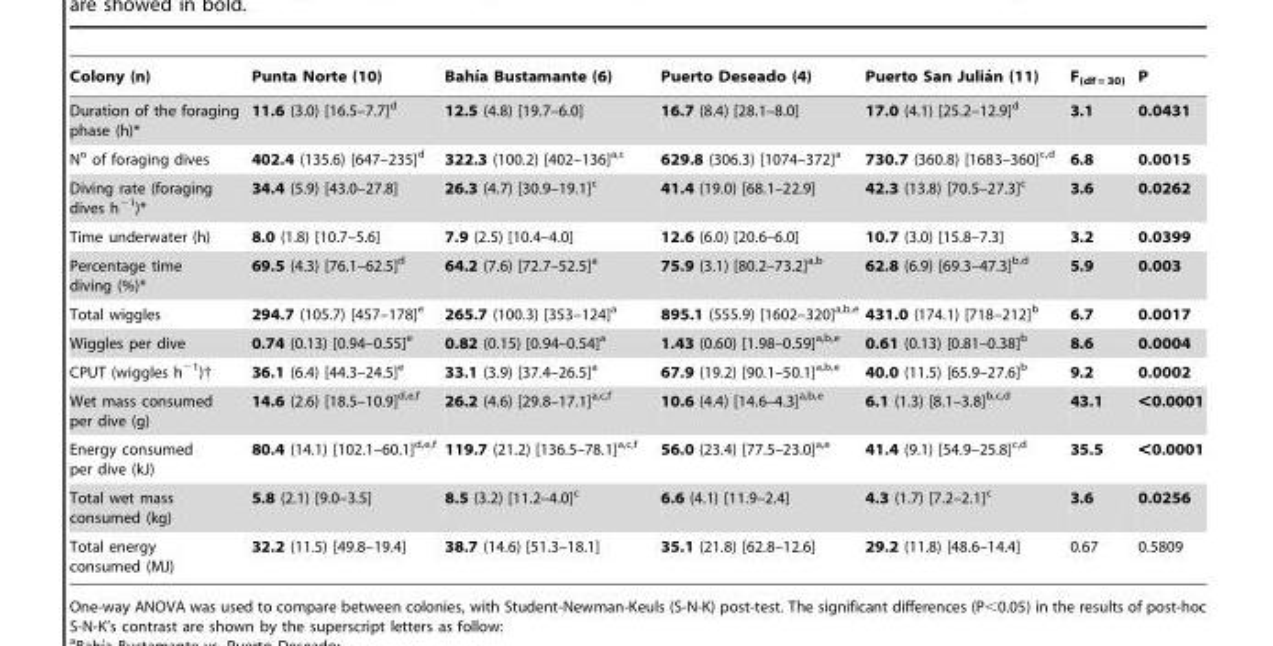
<table><thead><tr><td>Colony (n)</td><td>Punta Norte (10)</td><td>Bahı´a Bustamante (6)</td><td>Puerto Deseado (4)</td><td>Puerto San Julia´n (11)</td><td>F<sub>(df = 30)</sub></td><td>P</td></tr></thead><tbody><tr><td>Duration of the foraging phase (h)*</td><td>11.6 (3.0) [16.5–7.7]<sup>d</sup></td><td>12.5 (4.8) [19.7–6.0]</td><td>16.7 (8.4) [28.1–8.0]</td><td>17.0 (4.1) [25.2–12.9]<sup>d</sup></td><td>3.1</td><td>0.0431</td></tr><tr><td>N<sup>o</sup> of foraging dives</td><td>402.4 (135.6) [647–235]<sup>d</sup></td><td>322.3 (100.2) [402–136]a,c</td><td>629.8 (306.3) [1074–372]<sup>a</sup></td><td>730.7 (360.8) [1683–360]c,d</td><td>6.8</td><td>0.0015</td></tr><tr><td>Diving rate (foraging dives h<sup>−1</sup>)*</td><td>34.4 (5.9) [43.0–27.8]</td><td>26.3 (4.7) [30.9–19.1]<sup>c</sup></td><td>41.4 (19.0) [68.1–22.9]</td><td>42.3 (13.8) [70.5–27.3]<sup>c</sup></td><td>3.6</td><td>0.0262</td></tr><tr><td>Time underwater (h)</td><td>8.0 (1.8) [10.7–5.6]</td><td>7.9 (2.5) [10.4–4.0]</td><td>12.6 (6.0) [20.6–6.0]</td><td>10.7 (3.0) [15.8–7.3]</td><td>3.2</td><td>0.0399</td></tr><tr><td>Percentage time diving (%)*</td><td>69.5 (4.3) [76.1–62.5]<sup>d</sup></td><td>64.2 (7.6) [72.7–52.5]<sup>a</sup></td><td>75.9 (3.1) [80.2–73.2]a,b</td><td>62.8 (6.9) [69.3–47.3]b,d</td><td>5.9</td><td>0.003</td></tr><tr><td>Total wiggles</td><td>294.7 (105.7) [457–178]<sup>e</sup></td><td>265.7 (100.3) [353–124]<sup>a</sup></td><td>895.1 (555.9) [1602–320]a,b,e</td><td>431.0 (174.1) [718–212]<sup>b</sup></td><td>6.7</td><td>0.0017</td></tr><tr><td>Wiggles per dive</td><td>0.74 (0.13) [0.94–0.55]<sup>e</sup></td><td>0.82 (0.15) [0.94–0.54]<sup>a</sup></td><td>1.43 (0.60) [1.98–0.59]a,b,e</td><td>0.61 (0.13) [0.81–0.38]<sup>b</sup></td><td>8.6</td><td>0.0004</td></tr><tr><td>CPUT (wiggles h<sup>−1</sup>)†</td><td>36.1 (6.4) [44.3–24.5]<sup>e</sup></td><td>33.1 (3.9) [37.4–26.5]<sup>a</sup></td><td>67.9 (19.2) [90.1–50.1]a,b,e</td><td>40.0 (11.5) [65.9–27.6]<sup>b</sup></td><td>9.2</td><td>0.0002</td></tr><tr><td>Wet mass consumed per dive (g)</td><td>14.6 (2.6) [18.5–10.9]d,e,f</td><td>26.2 (4.6) [29.8–17.1]a,c,f</td><td>10.6 (4.4) [14.6–4.3]a,b,e</td><td>6.1 (1.3) [8.1–3.8]b,c,d</td><td>43.1</td><td>&lt;0.0001</td></tr><tr><td>Energy consumed per dive (kJ)</td><td>80.4 (14.1) [102.1–60.1]d,e,f</td><td>119.7 (21.2) [136.5–78.1]a,c,f</td><td>56.0 (23.4) [77.5–23.0]a,e</td><td>41.4 (9.1) [54.9–25.8]c,d</td><td>35.5</td><td>&lt;0.0001</td></tr><tr><td>Total wet mass consumed (kg)</td><td>5.8 (2.1) [9.0–3.5]</td><td>8.5 (3.2) [11.2–4.0]<sup>c</sup></td><td>6.6 (4.1) [11.9–2.4]</td><td>4.3 (1.7) [7.2–2.1]<sup>c</sup></td><td>3.6</td><td>0.0256</td></tr><tr><td>Total energy consumed (MJ)</td><td>32.2 (11.5) [49.8–19.4]</td><td>38.7 (14.6) [51.3–18.1]</td><td>35.1 (21.8) [62.8–12.6]</td><td>29.2 (11.8) [48.6–14.4]</td><td>0.67</td><td>0.5809</td></tr></tbody></table>